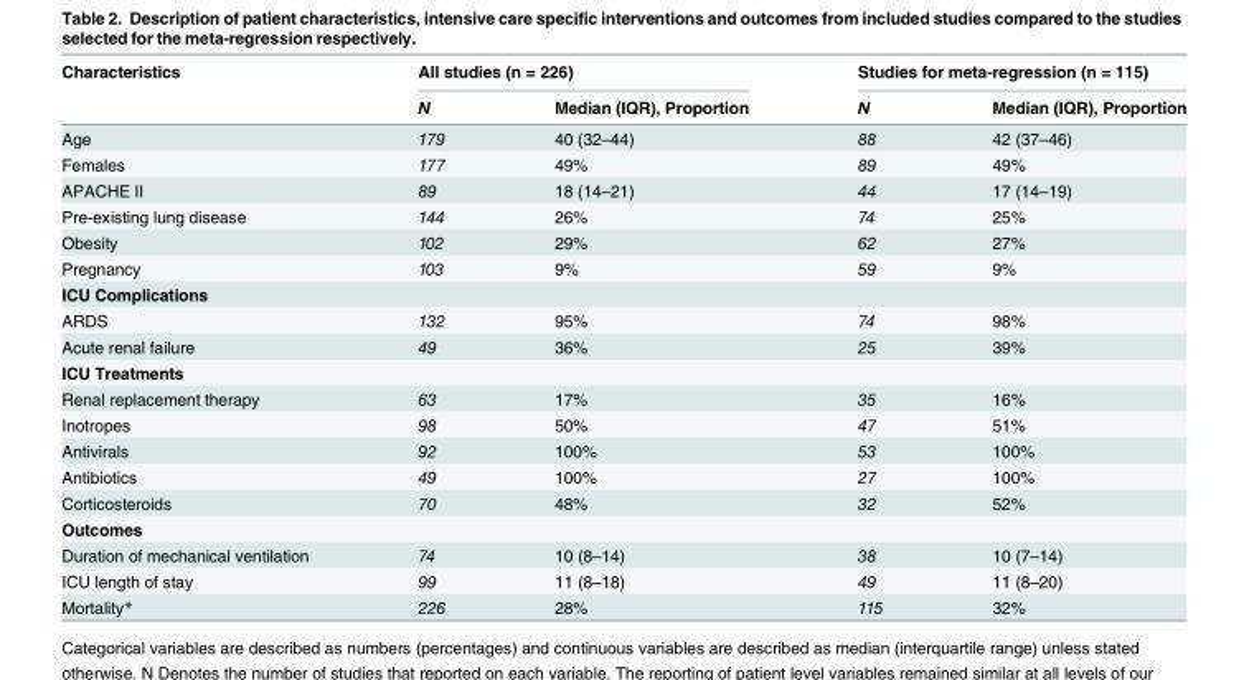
<table><thead><tr><td rowspan="2">Characteristics</td><td colspan="2">All studies (n = 226)</td><td colspan="2">Studies for meta-regression (n = 115)</td></tr><tr><td>N</td><td>Median (IQR), Proportion</td><td>N</td><td>Median (IQR), Proportion</td></tr></thead><tbody><tr><td>Age</td><td>179</td><td>40 (32–44)</td><td>88</td><td>42 (37–46)</td></tr><tr><td>Females</td><td>177</td><td>49%</td><td>89</td><td>49%</td></tr><tr><td>APACHE II</td><td>89</td><td>18 (14–21)</td><td>44</td><td>17 (14–19)</td></tr><tr><td>Pre-existing lung disease</td><td>144</td><td>26%</td><td>74</td><td>25%</td></tr><tr><td>Obesity</td><td>102</td><td>29%</td><td>62</td><td>27%</td></tr><tr><td>Pregnancy</td><td>103</td><td>9%</td><td>59</td><td>9%</td></tr><tr><td colspan="5">ICU Complications</td></tr><tr><td>ARDS</td><td>132</td><td>95%</td><td>74</td><td>98%</td></tr><tr><td>Acute renal failure</td><td>49</td><td>36%</td><td>25</td><td>39%</td></tr><tr><td colspan="5">ICU Treatments</td></tr><tr><td>Renal replacement therapy</td><td>63</td><td>17%</td><td>35</td><td>16%</td></tr><tr><td>Inotropes</td><td>98</td><td>50%</td><td>47</td><td>51%</td></tr><tr><td>Antivirals</td><td>92</td><td>100%</td><td>53</td><td>100%</td></tr><tr><td>Antibiotics</td><td>49</td><td>100%</td><td>27</td><td>100%</td></tr><tr><td>Corticosteroids</td><td>70</td><td>48%</td><td>32</td><td>52%</td></tr><tr><td colspan="5">Outcomes</td></tr><tr><td>Duration of mechanical ventilation</td><td>74</td><td>10 (8–14)</td><td>38</td><td>10 (7–14)</td></tr><tr><td>ICU length of stay</td><td>99</td><td>11 (8–18)</td><td>49</td><td>11 (8–20)</td></tr><tr><td>Mortality*</td><td>226</td><td>28%</td><td>115</td><td>32%</td></tr></tbody></table>